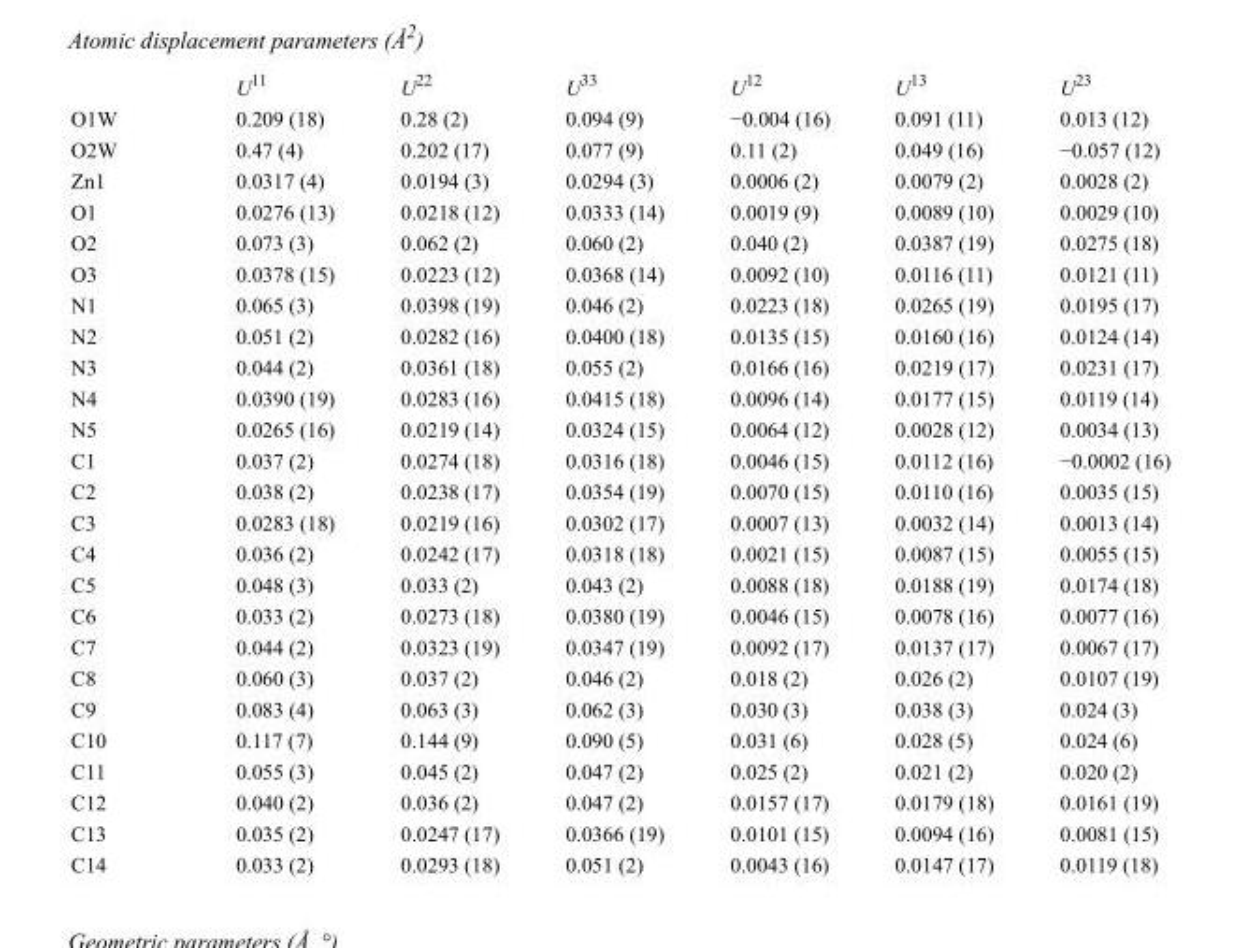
<table><thead><tr><td></td><td>U<sup>11</sup></td><td>U<sup>22</sup></td><td>U<sup>33</sup></td><td>U<sup>12</sup></td><td>U<sup>13</sup></td><td>U<sup>23</sup></td></tr></thead><tbody><tr><td>O1W</td><td>0.209 (18)</td><td>0.28 (2)</td><td>0.094 (9)</td><td>−0.004 (16)</td><td>0.091 (11)</td><td>0.013 (12)</td></tr><tr><td>O2W</td><td>0.47 (4)</td><td>0.202 (17)</td><td>0.077 (9)</td><td>0.11 (2)</td><td>0.049 (16)</td><td>−0.057 (12)</td></tr><tr><td>Zn1</td><td>0.0317 (4)</td><td>0.0194 (3)</td><td>0.0294 (3)</td><td>0.0006 (2)</td><td>0.0079 (2)</td><td>0.0028 (2)</td></tr><tr><td>O1</td><td>0.0276 (13)</td><td>0.0218 (12)</td><td>0.0333 (14)</td><td>0.0019 (9)</td><td>0.0089 (10)</td><td>0.0029 (10)</td></tr><tr><td>O2</td><td>0.073 (3)</td><td>0.062 (2)</td><td>0.060 (2)</td><td>0.040 (2)</td><td>0.0387 (19)</td><td>0.0275 (18)</td></tr><tr><td>O3</td><td>0.0378 (15)</td><td>0.0223 (12)</td><td>0.0368 (14)</td><td>0.0092 (10)</td><td>0.0116 (11)</td><td>0.0121 (11)</td></tr><tr><td>N1</td><td>0.065 (3)</td><td>0.0398 (19)</td><td>0.046 (2)</td><td>0.0223 (18)</td><td>0.0265 (19)</td><td>0.0195 (17)</td></tr><tr><td>N2</td><td>0.051 (2)</td><td>0.0282 (16)</td><td>0.0400 (18)</td><td>0.0135 (15)</td><td>0.0160 (16)</td><td>0.0124 (14)</td></tr><tr><td>N3</td><td>0.044 (2)</td><td>0.0361 (18)</td><td>0.055 (2)</td><td>0.0166 (16)</td><td>0.0219 (17)</td><td>0.0231 (17)</td></tr><tr><td>N4</td><td>0.0390 (19)</td><td>0.0283 (16)</td><td>0.0415 (18)</td><td>0.0096 (14)</td><td>0.0177 (15)</td><td>0.0119 (14)</td></tr><tr><td>N5</td><td>0.0265 (16)</td><td>0.0219 (14)</td><td>0.0324 (15)</td><td>0.0064 (12)</td><td>0.0028 (12)</td><td>0.0034 (13)</td></tr><tr><td>C1</td><td>0.037 (2)</td><td>0.0274 (18)</td><td>0.0316 (18)</td><td>0.0046 (15)</td><td>0.0112 (16)</td><td>−0.0002 (16)</td></tr><tr><td>C2</td><td>0.038 (2)</td><td>0.0238 (17)</td><td>0.0354 (19)</td><td>0.0070 (15)</td><td>0.0110 (16)</td><td>0.0035 (15)</td></tr><tr><td>C3</td><td>0.0283 (18)</td><td>0.0219 (16)</td><td>0.0302 (17)</td><td>0.0007 (13)</td><td>0.0032 (14)</td><td>0.0013 (14)</td></tr><tr><td>C4</td><td>0.036 (2)</td><td>0.0242 (17)</td><td>0.0318 (18)</td><td>0.0021 (15)</td><td>0.0087 (15)</td><td>0.0055 (15)</td></tr><tr><td>C5</td><td>0.048 (3)</td><td>0.033 (2)</td><td>0.043 (2)</td><td>0.0088 (18)</td><td>0.0188 (19)</td><td>0.0174 (18)</td></tr><tr><td>C6</td><td>0.033 (2)</td><td>0.0273 (18)</td><td>0.0380 (19)</td><td>0.0046 (15)</td><td>0.0078 (16)</td><td>0.0077 (16)</td></tr><tr><td>C7</td><td>0.044 (2)</td><td>0.0323 (19)</td><td>0.0347 (19)</td><td>0.0092 (17)</td><td>0.0137 (17)</td><td>0.0067 (17)</td></tr><tr><td>C8</td><td>0.060 (3)</td><td>0.037 (2)</td><td>0.046 (2)</td><td>0.018 (2)</td><td>0.026 (2)</td><td>0.0107 (19)</td></tr><tr><td>C9</td><td>0.083 (4)</td><td>0.063 (3)</td><td>0.062 (3)</td><td>0.030 (3)</td><td>0.038 (3)</td><td>0.024 (3)</td></tr><tr><td>C10</td><td>0.117 (7)</td><td>0.144 (9)</td><td>0.090 (5)</td><td>0.031 (6)</td><td>0.028 (5)</td><td>0.024 (6)</td></tr><tr><td>C11</td><td>0.055 (3)</td><td>0.045 (2)</td><td>0.047 (2)</td><td>0.025 (2)</td><td>0.021 (2)</td><td>0.020 (2)</td></tr><tr><td>C12</td><td>0.040 (2)</td><td>0.036 (2)</td><td>0.047 (2)</td><td>0.0157 (17)</td><td>0.0179 (18)</td><td>0.0161 (19)</td></tr><tr><td>C13</td><td>0.035 (2)</td><td>0.0247 (17)</td><td>0.0366 (19)</td><td>0.0101 (15)</td><td>0.0094 (16)</td><td>0.0081 (15)</td></tr><tr><td>C14</td><td>0.033 (2)</td><td>0.0293 (18)</td><td>0.051 (2)</td><td>0.0043 (16)</td><td>0.0147 (17)</td><td>0.0119 (18)</td></tr></tbody></table>